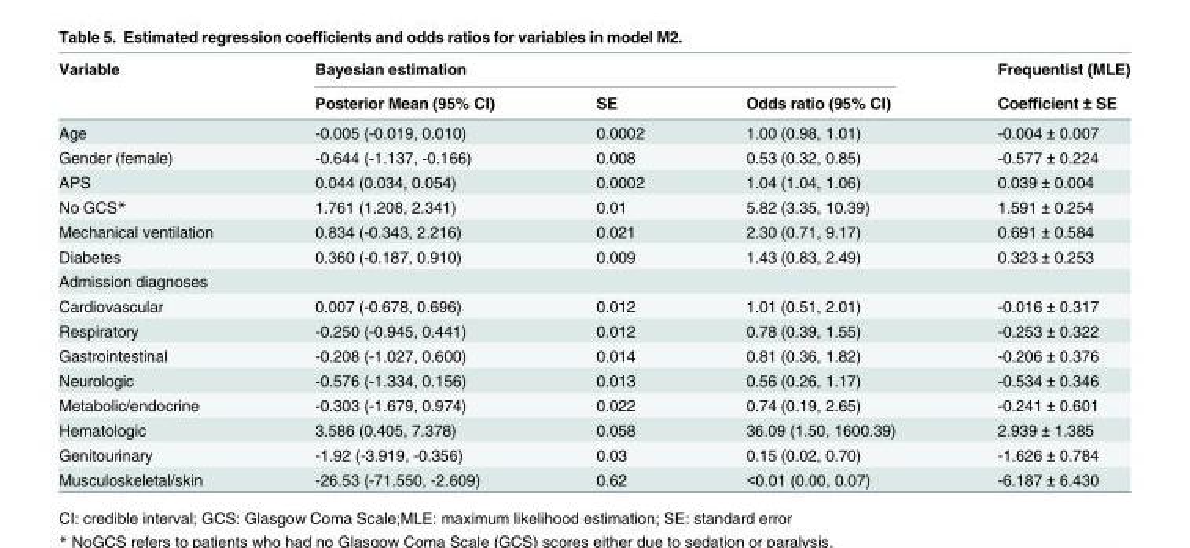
<table><thead><tr><td rowspan="2">Variable</td><td colspan="3">Bayesian estimation</td><td rowspan="2">Frequentist (MLE) Coefficient ± SE</td></tr><tr><td>Posterior Mean (95% CI)</td><td>SE</td><td>Odds ratio (95% CI)</td></tr></thead><tbody><tr><td>Age</td><td>-0.005 (-0.019, 0.010)</td><td>0.0002</td><td>1.00 (0.98, 1.01)</td><td>-0.004 ± 0.007</td></tr><tr><td>Gender (female)</td><td>-0.644 (-1.137, -0.166)</td><td>0.008</td><td>0.53 (0.32, 0.85)</td><td>-0.577 ± 0.224</td></tr><tr><td>APS</td><td>0.044 (0.034, 0.054)</td><td>0.0002</td><td>1.04 (1.04, 1.06)</td><td>0.039 ± 0.004</td></tr><tr><td>No GCS*</td><td>1.761 (1.208, 2.341)</td><td>0.01</td><td>5.82 (3.35, 10.39)</td><td>1.591 ± 0.254</td></tr><tr><td>Mechanical ventilation</td><td>0.834 (-0.343, 2.216)</td><td>0.021</td><td>2.30 (0.71, 9.17)</td><td>0.691 ± 0.584</td></tr><tr><td>Diabetes</td><td>0.360 (-0.187, 0.910)</td><td>0.009</td><td>1.43 (0.83, 2.49)</td><td>0.323 ± 0.253</td></tr><tr><td colspan="5">Admission diagnoses</td></tr><tr><td>Cardiovascular</td><td>0.007 (-0.678, 0.696)</td><td>0.012</td><td>1.01 (0.51, 2.01)</td><td>-0.016 ± 0.317</td></tr><tr><td>Respiratory</td><td>-0.250 (-0.945, 0.441)</td><td>0.012</td><td>0.78 (0.39, 1.55)</td><td>-0.253 ± 0.322</td></tr><tr><td>Gastrointestinal</td><td>-0.208 (-1.027, 0.600)</td><td>0.014</td><td>0.81 (0.36, 1.82)</td><td>-0.206 ± 0.376</td></tr><tr><td>Neurologic</td><td>-0.576 (-1.334, 0.156)</td><td>0.013</td><td>0.56 (0.26, 1.17)</td><td>-0.534 ± 0.346</td></tr><tr><td>Metabolic/endocrine</td><td>-0.303 (-1.679, 0.974)</td><td>0.022</td><td>0.74 (0.19, 2.65)</td><td>-0.241 ± 0.601</td></tr><tr><td>Hematologic</td><td>3.586 (0.405, 7.378)</td><td>0.058</td><td>36.09 (1.50, 1600.39)</td><td>2.939 ± 1.385</td></tr><tr><td>Genitourinary</td><td>-1.92 (-3.919, -0.356)</td><td>0.03</td><td>0.15 (0.02, 0.70)</td><td>-1.626 ± 0.784</td></tr><tr><td>Musculoskeletal/skin</td><td>-26.53 (-71.550, -2.609)</td><td>0.62</td><td>&lt;0.01 (0.00, 0.07)</td><td>-6.187 ± 6.430</td></tr></tbody></table>